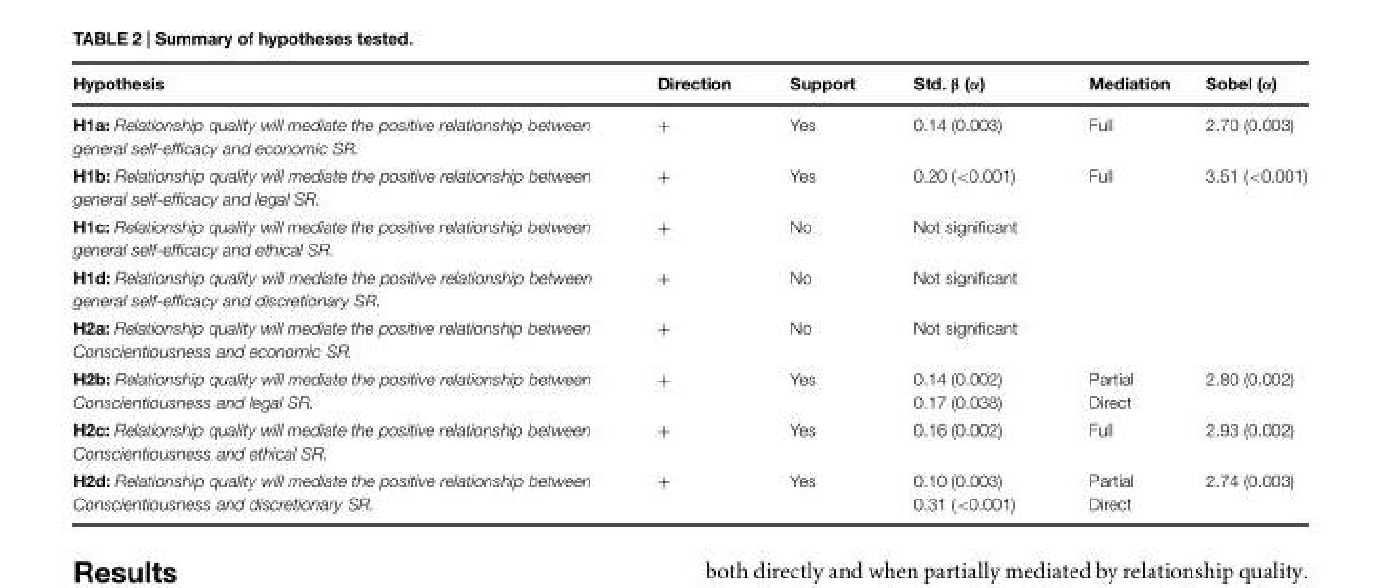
<table><thead><tr><td>Hypothesis</td><td>Direction</td><td>Support</td><td>Std. β (α)</td><td>Mediation</td><td>Sobel (α)</td></tr></thead><tbody><tr><td>H1a: Relationship quality will mediate the positive relationship between general self-efficacy and economic SR.</td><td>+</td><td>Yes</td><td>0.14 (0.003)</td><td>Full</td><td>2.70 (0.003)</td></tr><tr><td>H1b: Relationship quality will mediate the positive relationship between general self-efficacy and legal SR.</td><td>+</td><td>Yes</td><td>0.20 (&lt;0.001)</td><td>Full</td><td>3.51 (&lt;0.001)</td></tr><tr><td>H1c: Relationship quality will mediate the positive relationship between general self-efficacy and ethical SR.</td><td>+</td><td>No</td><td>Not significant</td><td></td><td></td></tr><tr><td>H1d: Relationship quality will mediate the positive relationship between general self-efficacy and discretionary SR.</td><td>+</td><td>No</td><td>Not significant</td><td></td><td></td></tr><tr><td>H2a: Relationship quality will mediate the positive relationship between Conscientiousness and economic SR.</td><td>+</td><td>No</td><td>Not significant</td><td></td><td></td></tr><tr><td>H2b: Relationship quality will mediate the positive relationship between Conscientiousness and legal SR.</td><td>+</td><td>Yes</td><td>0.14 (0.002) 0.17 (0.038)</td><td>Partial Direct</td><td>2.80 (0.002)</td></tr><tr><td>H2c: Relationship quality will mediate the positive relationship between Conscientiousness and ethical SR.</td><td>+</td><td>Yes</td><td>0.16 (0.002)</td><td>Full</td><td>2.93 (0.002)</td></tr><tr><td>H2d: Relationship quality will mediate the positive relationship between Conscientiousness and discretionary SR.</td><td>+</td><td>Yes</td><td>0.10 (0.003) 0.31 (&lt;0.001)</td><td>Partial Direct</td><td>2.74 (0.003)</td></tr></tbody></table>